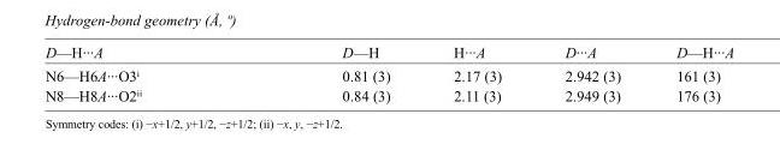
<table><tbody><tr><td>D—H···A</td><td>D—H</td><td>H···A</td><td>D···A</td><td>D—H···A</td></tr><tr><td>N6—H6A···O3<sup>i</sup></td><td>0.81 (3)</td><td>2.17 (3)</td><td>2.942 (3)</td><td>161 (3)</td></tr><tr><td>N8—H8A···O2<sup>ii</sup></td><td>0.84 (3)</td><td>2.11 (3)</td><td>2.949 (3)</td><td>176 (3)</td></tr></tbody></table>